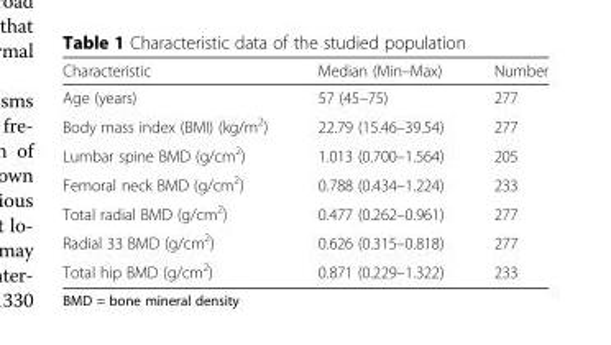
<table><thead><tr><td>Characteristic</td><td>Median (Min–Max)</td><td>Number</td></tr></thead><tbody><tr><td>Age (years)</td><td>57 (45–75)</td><td>277</td></tr><tr><td>Body mass index (BMI) (kg/m<sup>2</sup>)</td><td>22.79 (15.46–39.54)</td><td>277</td></tr><tr><td>Lumbar spine BMD (g/cm<sup>2</sup>)</td><td>1.013 (0.700–1.564)</td><td>205</td></tr><tr><td>Femoral neck BMD (g/cm<sup>2</sup>)</td><td>0.788 (0.434–1.224)</td><td>233</td></tr><tr><td>Total radial BMD (g/cm<sup>2</sup>)</td><td>0.477 (0.262–0.961)</td><td>277</td></tr><tr><td>Radial 33 BMD (g/cm<sup>2</sup>)</td><td>0.626 (0.315–0.818)</td><td>277</td></tr><tr><td>Total hip BMD (g/cm<sup>2</sup>)</td><td>0.871 (0.229–1.322)</td><td>233</td></tr></tbody></table>